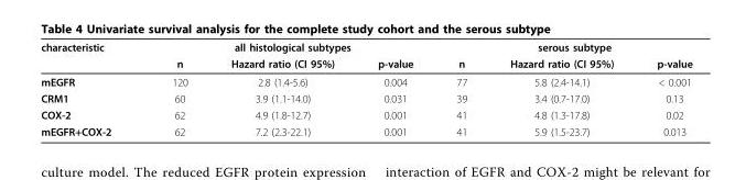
<table><thead><tr><td rowspan="2">characteristic</td><td colspan="3">all histological subtypes</td><td colspan="3">serous subtype</td></tr><tr><td>n</td><td>Hazard ratio (CI 95%)</td><td>p-value</td><td>n</td><td>Hazard ratio (CI 95%)</td><td>p-value</td></tr></thead><tbody><tr><td>mEGFR</td><td>120</td><td>2.8 (1.4-5.6)</td><td>0.004</td><td>77</td><td>5.8 (2.4-14.1)</td><td>&lt; 0.001</td></tr><tr><td>CRM1</td><td>60</td><td>3.9 (1.1-14.0)</td><td>0.031</td><td>39</td><td>3.4 (0.7-17.0)</td><td>0.13</td></tr><tr><td>COX-2</td><td>62</td><td>4.9 (1.8-12.7)</td><td>0.001</td><td>41</td><td>4.8 (1.3-17.8)</td><td>0.02</td></tr><tr><td>mEGFR+COX-2</td><td>62</td><td>7.2 (2.3-22.1)</td><td>0.001</td><td>41</td><td>5.9 (1.5-23.7)</td><td>0.013</td></tr></tbody></table>